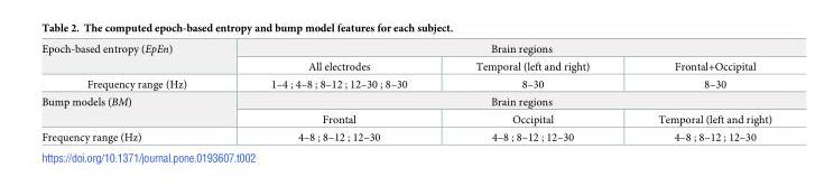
<table><tbody><tr><td rowspan="2">Epoch-based entropy (EpEn)</td><td colspan="3">Brain regions</td></tr><tr><td>All electrodes</td><td>Temporal (left and right)</td><td>Frontal+Occipital</td></tr><tr><td>Frequency range (Hz)</td><td>1–4 ; 4–8 ; 8–12 ; 12–30 ; 8–30</td><td>8–30</td><td>8–30</td></tr><tr><td rowspan="2">Bump models (BM)</td><td colspan="3">Brain regions</td></tr><tr><td>Frontal</td><td>Occipital</td><td>Temporal (left and right)</td></tr><tr><td>Frequency range (Hz)</td><td>4–8 ; 8–12 ; 12–30</td><td>4–8 ; 8–12 ; 12–30</td><td>4–8 ; 8–12 ; 12–30</td></tr></tbody></table>